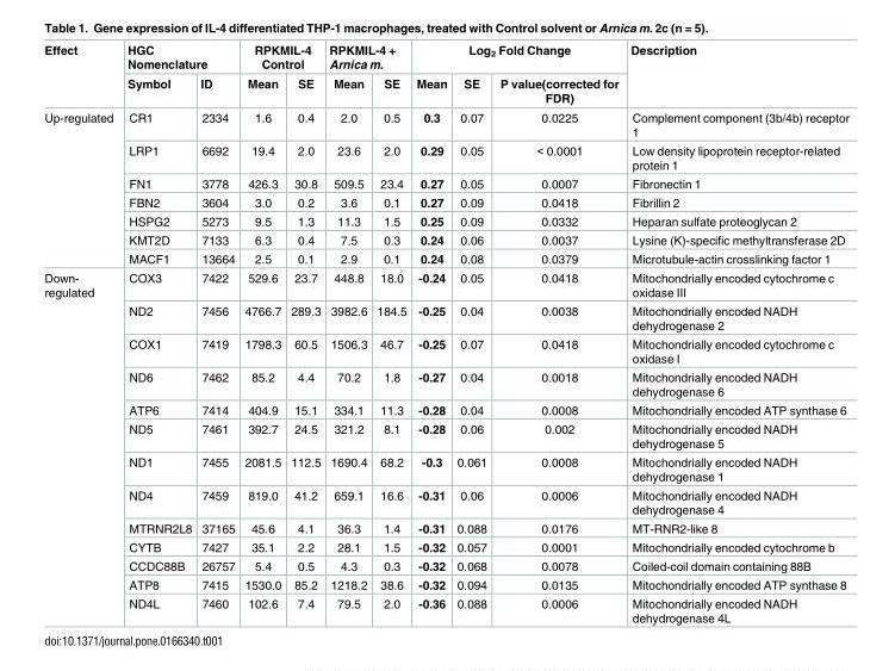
<table><thead><tr><td rowspan="2">Effect</td><td colspan="2">HGC Nomenclature</td><td colspan="2">RPKMIL-4 Control</td><td colspan="2">RPKMIL-4 + Arnica m.</td><td colspan="3">Log2 Fold Change</td><td rowspan="2">Description</td></tr><tr><td>Symbol</td><td>ID</td><td>Mean</td><td>SE</td><td>Mean</td><td>SE</td><td>Mean</td><td>SE</td><td>P value(corrected for FDR)</td></tr></thead><tbody><tr><td rowspan="7">Up-regulated</td><td>CR1</td><td>2334</td><td>1.6</td><td>0.4</td><td>2.0</td><td>0.5</td><td>0.3</td><td>0.07</td><td>0.0225</td><td>Complement component (3b/4b) receptor 1</td></tr><tr><td>LRP1</td><td>6692</td><td>19.4</td><td>2.0</td><td>23.6</td><td>2.0</td><td>0.29</td><td>0.05</td><td>&lt; 0.0001</td><td>Low density lipoprotein receptor-related protein 1</td></tr><tr><td>FN1</td><td>3778</td><td>426.3</td><td>30.8</td><td>509.5</td><td>23.4</td><td>0.27</td><td>0.05</td><td>0.0007</td><td>Fibronectin 1</td></tr><tr><td>FBN2</td><td>3604</td><td>3.0</td><td>0.2</td><td>3.6</td><td>0.1</td><td>0.27</td><td>0.09</td><td>0.0418</td><td>Fibrillin 2</td></tr><tr><td>HSPG2</td><td>5273</td><td>9.5</td><td>1.3</td><td>11.3</td><td>1.5</td><td>0.25</td><td>0.09</td><td>0.0332</td><td>Heparan sulfate proteoglycan 2</td></tr><tr><td>KMT2D</td><td>7133</td><td>6.3</td><td>0.4</td><td>7.5</td><td>0.3</td><td>0.24</td><td>0.06</td><td>0.0037</td><td>Lysine (K)-specific methyltransferase 2D</td></tr><tr><td>MACF1</td><td>13664</td><td>2.5</td><td>0.1</td><td>2.9</td><td>0.1</td><td>0.24</td><td>0.08</td><td>0.0379</td><td>Microtubule-actin crosslinking factor 1</td></tr><tr><td rowspan="13">Down- regulated</td><td>COX3</td><td>7422</td><td>529.6</td><td>23.7</td><td>448.8</td><td>18.0</td><td>-0.24</td><td>0.05</td><td>0.0418</td><td>Mitochondrially encoded cytochrome c oxidase III</td></tr><tr><td>ND2</td><td>7456</td><td>4766.7</td><td>289.3</td><td>3982.6</td><td>184.5</td><td>-0.25</td><td>0.04</td><td>0.0038</td><td>Mitochondrially encoded NADH dehydrogenase 2</td></tr><tr><td>COX1</td><td>7419</td><td>1798.3</td><td>60.5</td><td>1506.3</td><td>46.7</td><td>-0.25</td><td>0.07</td><td>0.0418</td><td>Mitochondrially encoded cytochrome c oxidase I</td></tr><tr><td>ND6</td><td>7462</td><td>85.2</td><td>4.4</td><td>70.2</td><td>1.8</td><td>-0.27</td><td>0.04</td><td>0.0018</td><td>Mitochondrially encoded NADH dehydrogenase 6</td></tr><tr><td>ATP6</td><td>7414</td><td>404.9</td><td>15.1</td><td>334.1</td><td>11.3</td><td>-0.28</td><td>0.04</td><td>0.0008</td><td>Mitochondrially encoded ATP synthase 6</td></tr><tr><td>ND5</td><td>7461</td><td>392.7</td><td>24.5</td><td>321.2</td><td>8.1</td><td>-0.28</td><td>0.06</td><td>0.002</td><td>Mitochondrially encoded NADH dehydrogenase 5</td></tr><tr><td>ND1</td><td>7455</td><td>2081.5</td><td>112.5</td><td>1690.4</td><td>68.2</td><td>-0.3</td><td>0.061</td><td>0.0008</td><td>Mitochondrially encoded NADH dehydrogenase 1</td></tr><tr><td>ND4</td><td>7459</td><td>819.0</td><td>41.2</td><td>659.1</td><td>16.6</td><td>-0.31</td><td>0.06</td><td>0.0006</td><td>Mitochondrially encoded NADH dehydrogenase 4</td></tr><tr><td>MTRNR2L8</td><td>37165</td><td>45.6</td><td>4.1</td><td>36.3</td><td>1.4</td><td>-0.31</td><td>0.088</td><td>0.0176</td><td>MT-RNR2-like 8</td></tr><tr><td>CYTB</td><td>7427</td><td>35.1</td><td>2.2</td><td>28.1</td><td>1.5</td><td>-0.32</td><td>0.057</td><td>0.0001</td><td>Mitochondrially encoded cytochrome b</td></tr><tr><td>CCDC88B</td><td>26757</td><td>5.4</td><td>0.5</td><td>4.3</td><td>0.3</td><td>-0.32</td><td>0.068</td><td>0.0078</td><td>Coiled-coil domain containing 88B</td></tr><tr><td>ATP8</td><td>7415</td><td>1530.0</td><td>85.2</td><td>1218.2</td><td>38.6</td><td>-0.32</td><td>0.094</td><td>0.0135</td><td>Mitochondrially encoded ATP synthase 8</td></tr><tr><td>ND4L</td><td>7460</td><td>102.6</td><td>7.4</td><td>79.5</td><td>2.0</td><td>-0.36</td><td>0.088</td><td>0.0006</td><td>Mitochondrially encoded NADH dehydrogenase 4L</td></tr></tbody></table>